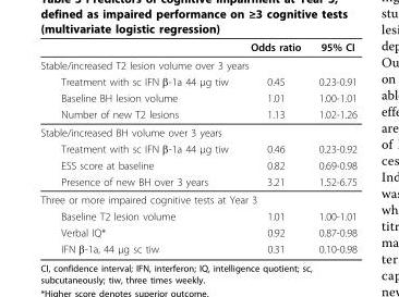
<table><thead><tr><td></td><td>Odds ratio</td><td>95% CI</td></tr></thead><tbody><tr><td colspan="3">Stable/increased T2 lesion volume over 3 years</td></tr><tr><td>Treatment with sc IFN β-1a 44 µg tiw</td><td>0.45</td><td>0.23-0.91</td></tr><tr><td>Baseline BH lesion volume</td><td>1.01</td><td>1.00-1.01</td></tr><tr><td>Number of new T2 lesions</td><td>1.13</td><td>1.02-1.26</td></tr><tr><td colspan="3">Stable/increased BH volume over 3 years</td></tr><tr><td>Treatment with sc IFN β-1a 44 µg tiw</td><td>0.46</td><td>0.23-0.92</td></tr><tr><td>ESS score at baseline</td><td>0.82</td><td>0.69-0.98</td></tr><tr><td>Presence of new BH over 3 years</td><td>3.21</td><td>1.52-6.75</td></tr><tr><td colspan="3">Three or more impaired cognitive tests at Year 3</td></tr><tr><td>Baseline T2 lesion volume</td><td>1.01</td><td>1.00-1.01</td></tr><tr><td>Verbal IQ*</td><td>0.92</td><td>0.87-0.98</td></tr><tr><td>IFN β-1a, 44 μg sc tiw</td><td>0.31</td><td>0.10-0.98</td></tr></tbody></table>